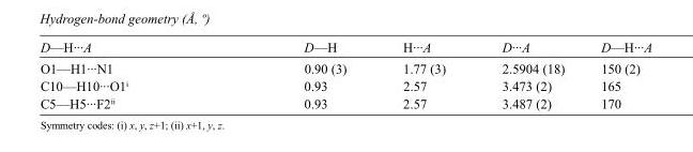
<table><tbody><tr><td>D—H···A</td><td>D—H</td><td>H···A</td><td>D···A</td><td>D—H···A</td></tr><tr><td>O1—H1···N1</td><td>0.90 (3)</td><td>1.77 (3)</td><td>2.5904 (18)</td><td>150 (2)</td></tr><tr><td>C10—H10···O1<sup>i</sup></td><td>0.93</td><td>2.57</td><td>3.473 (2)</td><td>165</td></tr><tr><td>C5—H5···F2<sup>ii</sup></td><td>0.93</td><td>2.57</td><td>3.487 (2)</td><td>170</td></tr></tbody></table>